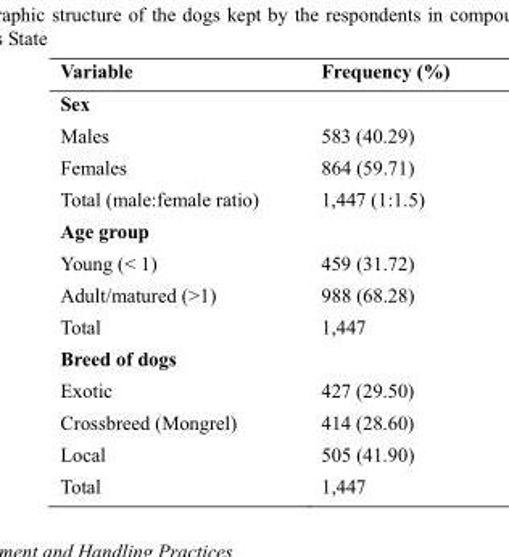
<table><thead><tr><td>Variable</td><td>Frequency (%)</td></tr></thead><tbody><tr><td colspan="2">Sex</td></tr><tr><td>Males</td><td>583 (40.29)</td></tr><tr><td>Females</td><td>864 (59.71)</td></tr><tr><td>Total (male:female ratio)</td><td>1,447 (1:1.5)</td></tr><tr><td colspan="2">Age group</td></tr><tr><td>Young (&lt; 1)</td><td>459 (31.72)</td></tr><tr><td>Adult/matured (&gt;1)</td><td>988 (68.28)</td></tr><tr><td>Total</td><td>1,447</td></tr><tr><td colspan="2">Breed of dogs</td></tr><tr><td>Exotic</td><td>427 (29.50)</td></tr><tr><td>Crossbreed (Mongrel)</td><td>414 (28.60)</td></tr><tr><td>Local</td><td>505 (41.90)</td></tr><tr><td>Total</td><td>1,447</td></tr></tbody></table>